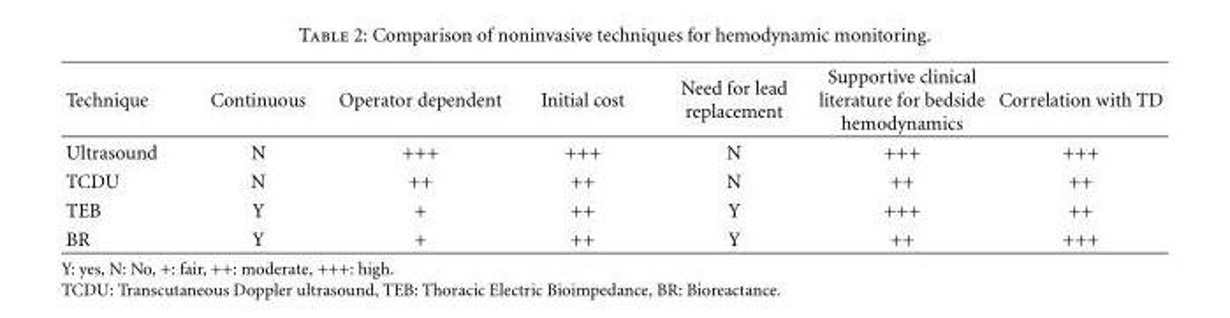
<table><thead><tr><td>Technique</td><td>Continuous</td><td>Operator dependent</td><td>Initial cost</td><td>Need for lead replacement</td><td>Supportive clinical literature for bedside hemodynamics</td><td>Correlation with TD</td></tr></thead><tbody><tr><td>Ultrasound</td><td>N</td><td>+++</td><td>+++</td><td>N</td><td>+++</td><td>+++</td></tr><tr><td>TCDU</td><td>N</td><td>++</td><td>++</td><td>N</td><td>++</td><td>++</td></tr><tr><td>TEB</td><td>Y</td><td>+</td><td>++</td><td>Y</td><td>+++</td><td>++</td></tr><tr><td>BR</td><td>Y</td><td>+</td><td>++</td><td>Y</td><td>++</td><td>+++</td></tr></tbody></table>